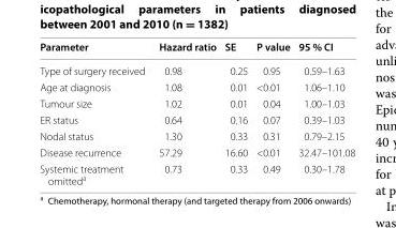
<table><thead><tr><td>Parameter</td><td>Hazard ratio</td><td>SE</td><td>P value</td><td>95 % CI</td></tr></thead><tbody><tr><td>Type of surgery received</td><td>0.98</td><td>0.25</td><td>0.95</td><td>0.59–1.63</td></tr><tr><td>Age at diagnosis</td><td>1.08</td><td>0.01</td><td>&lt;0.01</td><td>1.06–1.10</td></tr><tr><td>Tumour size</td><td>1.02</td><td>0.01</td><td>0.04</td><td>1.00–1.03</td></tr><tr><td>ER status</td><td>0.64</td><td>0.16</td><td>0.07</td><td>0.39–1.03</td></tr><tr><td>Nodal status</td><td>1.30</td><td>0.33</td><td>0.31</td><td>0.79–2.15</td></tr><tr><td>Disease recurrence</td><td>57.29</td><td>16.60</td><td>&lt;0.01</td><td>32.47–101.08</td></tr><tr><td>Systemic treatment omitted<sup>a</sup></td><td>0.73</td><td>0.33</td><td>0.49</td><td>0.30–1.78</td></tr></tbody></table>